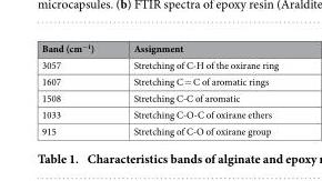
<table><thead><tr><td>Band (cm<sup>−1</sup>)</td><td>Assignment</td></tr></thead><tbody><tr><td>3057</td><td>Stretching of C-H of the oxirane ring</td></tr><tr><td>1607</td><td>Stretching C = C of aromatic rings</td></tr><tr><td>1508</td><td>Stretching C-C of aromatic</td></tr><tr><td>1033</td><td>Stretching C-O-C of oxirane ethers</td></tr><tr><td>915</td><td>Stretching of C-O of oxirane group</td></tr></tbody></table>